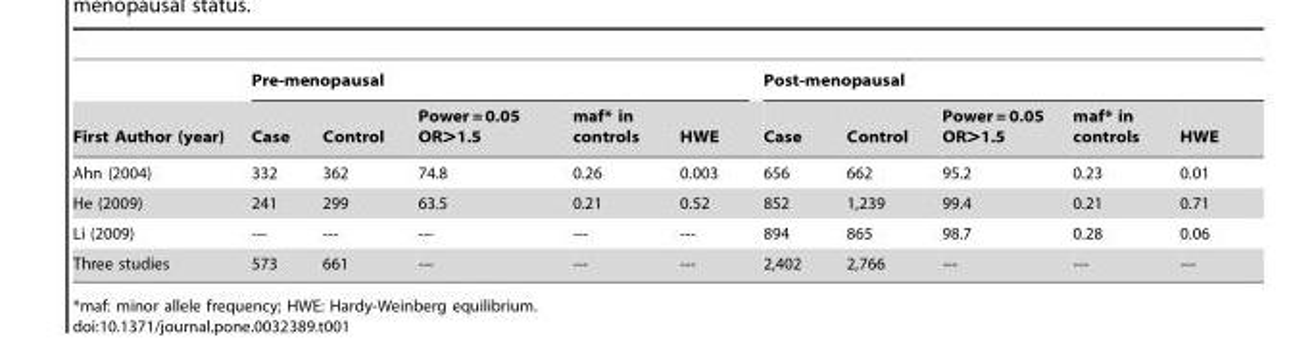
<table><thead><tr><td rowspan="2">First Author (year)</td><td colspan="5">Pre-menopausal</td><td colspan="5">Post-menopausal</td></tr><tr><td>Case</td><td>Control</td><td>Power = 0.05 OR&gt;1.5</td><td>maf* in controls</td><td>HWE</td><td>Case</td><td>Control</td><td>Power = 0.05 OR&gt;1.5</td><td>maf* in controls</td><td>HWE</td></tr></thead><tbody><tr><td>Ahn (2004)</td><td>332</td><td>362</td><td>74.8</td><td>0.26</td><td>0.003</td><td>656</td><td>662</td><td>95.2</td><td>0.23</td><td>0.01</td></tr><tr><td>He (2009)</td><td>241</td><td>299</td><td>63.5</td><td>0.21</td><td>0.52</td><td>852</td><td>1,239</td><td>99.4</td><td>0.21</td><td>0.71</td></tr><tr><td>Li (2009)</td><td>---</td><td>---</td><td>---</td><td>---</td><td>---</td><td>894</td><td>865</td><td>98.7</td><td>0.28</td><td>0.06</td></tr><tr><td>Three studies</td><td>573</td><td>661</td><td>---</td><td>---</td><td>---</td><td>2,402</td><td>2,766</td><td>---</td><td>---</td><td>---</td></tr></tbody></table>